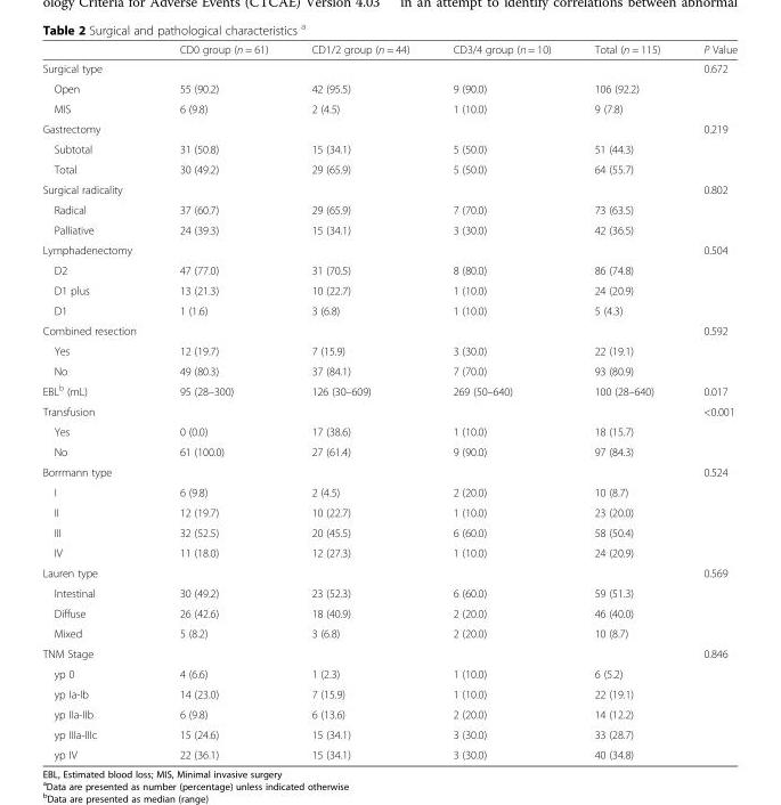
<table><thead><tr><td></td><td>CD0 group (n = 61)</td><td>CD1/2 group (n = 44)</td><td>CD3/4 group (n = 10)</td><td>Total (n = 115)</td><td>P Value</td></tr></thead><tbody><tr><td>Surgical type</td><td></td><td></td><td></td><td></td><td>0.672</td></tr><tr><td>Open</td><td>55 (90.2)</td><td>42 (95.5)</td><td>9 (90.0)</td><td>106 (92.2)</td><td></td></tr><tr><td>MIS</td><td>6 (9.8)</td><td>2 (4.5)</td><td>1 (10.0)</td><td>9 (7.8)</td><td></td></tr><tr><td>Gastrectomy</td><td></td><td></td><td></td><td></td><td>0.219</td></tr><tr><td>Subtotal</td><td>31 (50.8)</td><td>15 (34.1)</td><td>5 (50.0)</td><td>51 (44.3)</td><td></td></tr><tr><td>Total</td><td>30 (49.2)</td><td>29 (65.9)</td><td>5 (50.0)</td><td>64 (55.7)</td><td></td></tr><tr><td>Surgical radicality</td><td></td><td></td><td></td><td></td><td>0.802</td></tr><tr><td>Radical</td><td>37 (60.7)</td><td>29 (65.9)</td><td>7 (70.0)</td><td>73 (63.5)</td><td></td></tr><tr><td>Palliative</td><td>24 (39.3)</td><td>15 (34.1)</td><td>3 (30.0)</td><td>42 (36.5)</td><td></td></tr><tr><td>Lymphadenectomy</td><td></td><td></td><td></td><td></td><td>0.504</td></tr><tr><td>D2</td><td>47 (77.0)</td><td>31 (70.5)</td><td>8 (80.0)</td><td>86 (74.8)</td><td></td></tr><tr><td>D1 plus</td><td>13 (21.3)</td><td>10 (22.7)</td><td>1 (10.0)</td><td>24 (20.9)</td><td></td></tr><tr><td>D1</td><td>1 (1.6)</td><td>3 (6.8)</td><td>1 (10.0)</td><td>5 (4.3)</td><td></td></tr><tr><td>Combined resection</td><td></td><td></td><td></td><td></td><td>0.592</td></tr><tr><td>Yes</td><td>12 (19.7)</td><td>7 (15.9)</td><td>3 (30.0)</td><td>22 (19.1)</td><td></td></tr><tr><td>No</td><td>49 (80.3)</td><td>37 (84.1)</td><td>7 (70.0)</td><td>93 (80.9)</td><td></td></tr><tr><td>EBL<sup>b</sup> (mL)</td><td>95 (28–300)</td><td>126 (30–609)</td><td>269 (50–640)</td><td>100 (28–640)</td><td>0.017</td></tr><tr><td>Transfusion</td><td></td><td></td><td></td><td></td><td>&lt;0.001</td></tr><tr><td>Yes</td><td>0 (0.0)</td><td>17 (38.6)</td><td>1 (10.0)</td><td>18 (15.7)</td><td></td></tr><tr><td>No</td><td>61 (100.0)</td><td>27 (61.4)</td><td>9 (90.0)</td><td>97 (84.3)</td><td></td></tr><tr><td>Borrmann type</td><td></td><td></td><td></td><td></td><td>0.524</td></tr><tr><td>I</td><td>6 (9.8)</td><td>2 (4.5)</td><td>2 (20.0)</td><td>10 (8.7)</td><td></td></tr><tr><td>II</td><td>12 (19.7)</td><td>10 (22.7)</td><td>1 (10.0)</td><td>23 (20.0)</td><td></td></tr><tr><td>III</td><td>32 (52.5)</td><td>20 (45.5)</td><td>6 (60.0)</td><td>58 (50.4)</td><td></td></tr><tr><td>IV</td><td>11 (18.0)</td><td>12 (27.3)</td><td>1 (10.0)</td><td>24 (20.9)</td><td></td></tr><tr><td>Lauren type</td><td></td><td></td><td></td><td></td><td>0.569</td></tr><tr><td>Intestinal</td><td>30 (49.2)</td><td>23 (52.3)</td><td>6 (60.0)</td><td>59 (51.3)</td><td></td></tr><tr><td>Diffuse</td><td>26 (42.6)</td><td>18 (40.9)</td><td>2 (20.0)</td><td>46 (40.0)</td><td></td></tr><tr><td>Mixed</td><td>5 (8.2)</td><td>3 (6.8)</td><td>2 (20.0)</td><td>10 (8.7)</td><td></td></tr><tr><td>TNM Stage</td><td></td><td></td><td></td><td></td><td>0.846</td></tr><tr><td>yp 0</td><td>4 (6.6)</td><td>1 (2.3)</td><td>1 (10.0)</td><td>6 (5.2)</td><td></td></tr><tr><td>yp Ia-Ib</td><td>14 (23.0)</td><td>7 (15.9)</td><td>1 (10.0)</td><td>22 (19.1)</td><td></td></tr><tr><td>yp IIa-IIb</td><td>6 (9.8)</td><td>6 (13.6)</td><td>2 (20.0)</td><td>14 (12.2)</td><td></td></tr><tr><td>yp IIIa-IIIc</td><td>15 (24.6)</td><td>15 (34.1)</td><td>3 (30.0)</td><td>33 (28.7)</td><td></td></tr><tr><td>yp IV</td><td>22 (36.1)</td><td>15 (34.1)</td><td>3 (30.0)</td><td>40 (34.8)</td><td></td></tr></tbody></table>